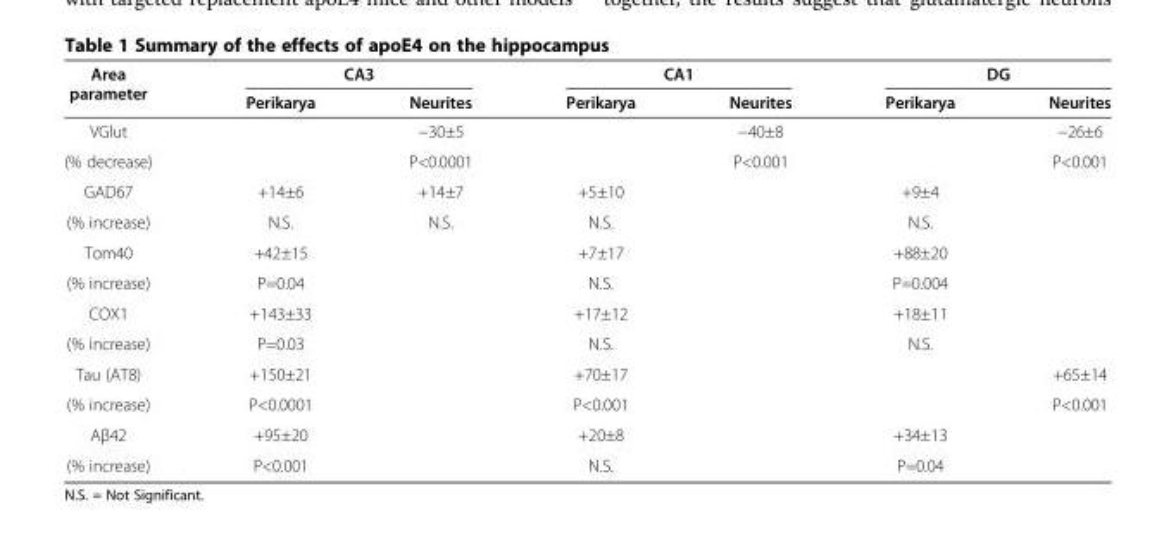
<table><thead><tr><td rowspan="2">Area parameter</td><td colspan="2">CA3</td><td colspan="2">CA1</td><td colspan="2">DG</td></tr><tr><td>Perikarya</td><td>Neurites</td><td>Perikarya</td><td>Neurites</td><td>Perikarya</td><td>Neurites</td></tr></thead><tbody><tr><td>VGlut</td><td></td><td>−30±5</td><td></td><td>−40±8</td><td></td><td>−26±6</td></tr><tr><td>(% decrease)</td><td></td><td>P&lt;0.0001</td><td></td><td>P&lt;0.001</td><td></td><td>P&lt;0.001</td></tr><tr><td>GAD67</td><td>+14±6</td><td>+14±7</td><td>+5±10</td><td></td><td>+9±4</td><td></td></tr><tr><td>(% increase)</td><td>N.S.</td><td>N.S.</td><td>N.S.</td><td></td><td>N.S.</td><td></td></tr><tr><td>Tom40</td><td>+42±15</td><td></td><td>+7±17</td><td></td><td>+88±20</td><td></td></tr><tr><td>(% increase)</td><td>P=0.04</td><td></td><td>N.S.</td><td></td><td>P=0.004</td><td></td></tr><tr><td>COX1</td><td>+143±33</td><td></td><td>+17±12</td><td></td><td>+18±11</td><td></td></tr><tr><td>(% increase)</td><td>P=0.03</td><td></td><td>N.S.</td><td></td><td>N.S.</td><td></td></tr><tr><td>Tau (AT8)</td><td>+150±21</td><td></td><td>+70±17</td><td></td><td></td><td>+65±14</td></tr><tr><td>(% increase)</td><td>P&lt;0.0001</td><td></td><td>P&lt;0.001</td><td></td><td></td><td>P&lt;0.001</td></tr><tr><td>Aβ42</td><td>+95±20</td><td></td><td>+20±8</td><td></td><td>+34±13</td><td></td></tr><tr><td>(% increase)</td><td>P&lt;0.001</td><td></td><td>N.S.</td><td></td><td>P=0.04</td><td></td></tr></tbody></table>